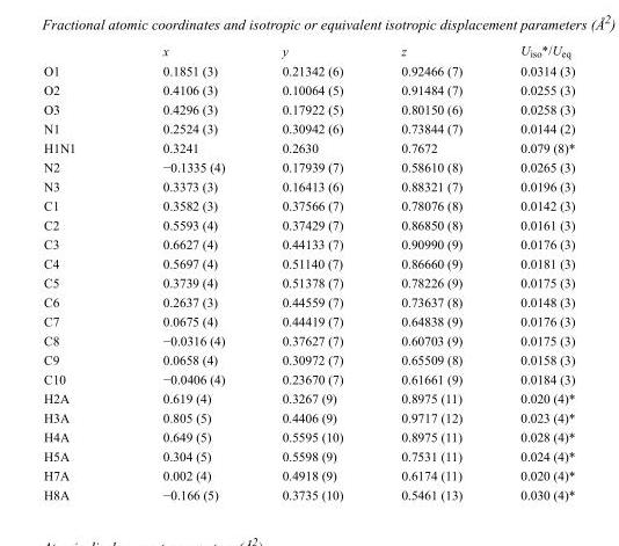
<table><thead><tr><td></td><td>x</td><td>y</td><td>z</td><td>U<sub>iso</sub>*/U<sub>eq</sub></td></tr></thead><tbody><tr><td>O1</td><td>0.1851 (3)</td><td>0.21342 (6)</td><td>0.92466 (7)</td><td>0.0314 (3)</td></tr><tr><td>O2</td><td>0.4106 (3)</td><td>0.10064 (5)</td><td>0.91484 (7)</td><td>0.0255 (3)</td></tr><tr><td>O3</td><td>0.4296 (3)</td><td>0.17922 (5)</td><td>0.80150 (6)</td><td>0.0258 (3)</td></tr><tr><td>N1</td><td>0.2524 (3)</td><td>0.30942 (6)</td><td>0.73844 (7)</td><td>0.0144 (2)</td></tr><tr><td>H1N1</td><td>0.3241</td><td>0.2630</td><td>0.7672</td><td>0.079 (8)*</td></tr><tr><td>N2</td><td>−0.1335 (4)</td><td>0.17939 (7)</td><td>0.58610 (8)</td><td>0.0265 (3)</td></tr><tr><td>N3</td><td>0.3373 (3)</td><td>0.16413 (6)</td><td>0.88321 (7)</td><td>0.0196 (3)</td></tr><tr><td>C1</td><td>0.3582 (3)</td><td>0.37566 (7)</td><td>0.78076 (8)</td><td>0.0142 (3)</td></tr><tr><td>C2</td><td>0.5593 (4)</td><td>0.37429 (7)</td><td>0.86850 (8)</td><td>0.0161 (3)</td></tr><tr><td>C3</td><td>0.6627 (4)</td><td>0.44133 (7)</td><td>0.90990 (9)</td><td>0.0176 (3)</td></tr><tr><td>C4</td><td>0.5697 (4)</td><td>0.51140 (7)</td><td>0.86660 (9)</td><td>0.0181 (3)</td></tr><tr><td>C5</td><td>0.3739 (4)</td><td>0.51378 (7)</td><td>0.78226 (9)</td><td>0.0175 (3)</td></tr><tr><td>C6</td><td>0.2637 (3)</td><td>0.44559 (7)</td><td>0.73637 (8)</td><td>0.0148 (3)</td></tr><tr><td>C7</td><td>0.0675 (4)</td><td>0.44419 (7)</td><td>0.64838 (9)</td><td>0.0176 (3)</td></tr><tr><td>C8</td><td>−0.0316 (4)</td><td>0.37627 (7)</td><td>0.60703 (9)</td><td>0.0175 (3)</td></tr><tr><td>C9</td><td>0.0658 (4)</td><td>0.30972 (7)</td><td>0.65509 (8)</td><td>0.0158 (3)</td></tr><tr><td>C10</td><td>−0.0406 (4)</td><td>0.23670 (7)</td><td>0.61661 (9)</td><td>0.0184 (3)</td></tr><tr><td>H2A</td><td>0.619 (4)</td><td>0.3267 (9)</td><td>0.8975 (11)</td><td>0.020 (4)*</td></tr><tr><td>H3A</td><td>0.805 (5)</td><td>0.4406 (9)</td><td>0.9717 (12)</td><td>0.023 (4)*</td></tr><tr><td>H4A</td><td>0.649 (5)</td><td>0.5595 (10)</td><td>0.8975 (11)</td><td>0.028 (4)*</td></tr><tr><td>H5A</td><td>0.304 (5)</td><td>0.5598 (9)</td><td>0.7531 (11)</td><td>0.024 (4)*</td></tr><tr><td>H7A</td><td>0.002 (4)</td><td>0.4918 (9)</td><td>0.6174 (11)</td><td>0.020 (4)*</td></tr><tr><td>H8A</td><td>−0.166 (5)</td><td>0.3735 (10)</td><td>0.5461 (13)</td><td>0.030 (4)*</td></tr></tbody></table>